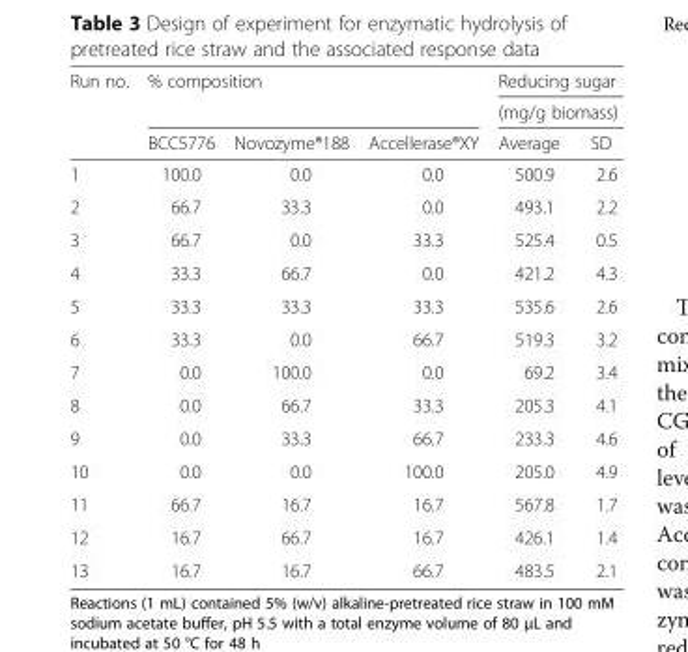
<table><thead><tr><td rowspan="3">Run no.</td><td rowspan="2" colspan="3">% composition</td><td rowspan="2" colspan="2">Reducing sugar (mg/g biomass)</td></tr><tr></tr><tr><td>BCC5776</td><td>Novozyme®188</td><td>Accellerase®XY</td><td>Average</td><td>SD</td></tr></thead><tbody><tr><td>1</td><td>100.0</td><td>0.0</td><td>0.0</td><td>500.9</td><td>2.6</td></tr><tr><td>2</td><td>66.7</td><td>33.3</td><td>0.0</td><td>493.1</td><td>2.2</td></tr><tr><td>3</td><td>66.7</td><td>0.0</td><td>33.3</td><td>525.4</td><td>0.5</td></tr><tr><td>4</td><td>33.3</td><td>66.7</td><td>0.0</td><td>421.2</td><td>4.3</td></tr><tr><td>5</td><td>33.3</td><td>33.3</td><td>33.3</td><td>535.6</td><td>2.6</td></tr><tr><td>6</td><td>33.3</td><td>0.0</td><td>66.7</td><td>519.3</td><td>3.2</td></tr><tr><td>7</td><td>0.0</td><td>100.0</td><td>0.0</td><td>69.2</td><td>3.4</td></tr><tr><td>8</td><td>0.0</td><td>66.7</td><td>33.3</td><td>205.3</td><td>4.1</td></tr><tr><td>9</td><td>0.0</td><td>33.3</td><td>66.7</td><td>233.3</td><td>4.6</td></tr><tr><td>10</td><td>0.0</td><td>0.0</td><td>100.0</td><td>205.0</td><td>4.9</td></tr><tr><td>11</td><td>66.7</td><td>16.7</td><td>16.7</td><td>567.8</td><td>1.7</td></tr><tr><td>12</td><td>16.7</td><td>66.7</td><td>16.7</td><td>426.1</td><td>1.4</td></tr><tr><td>13</td><td>16.7</td><td>16.7</td><td>66.7</td><td>483.5</td><td>2.1</td></tr></tbody></table>